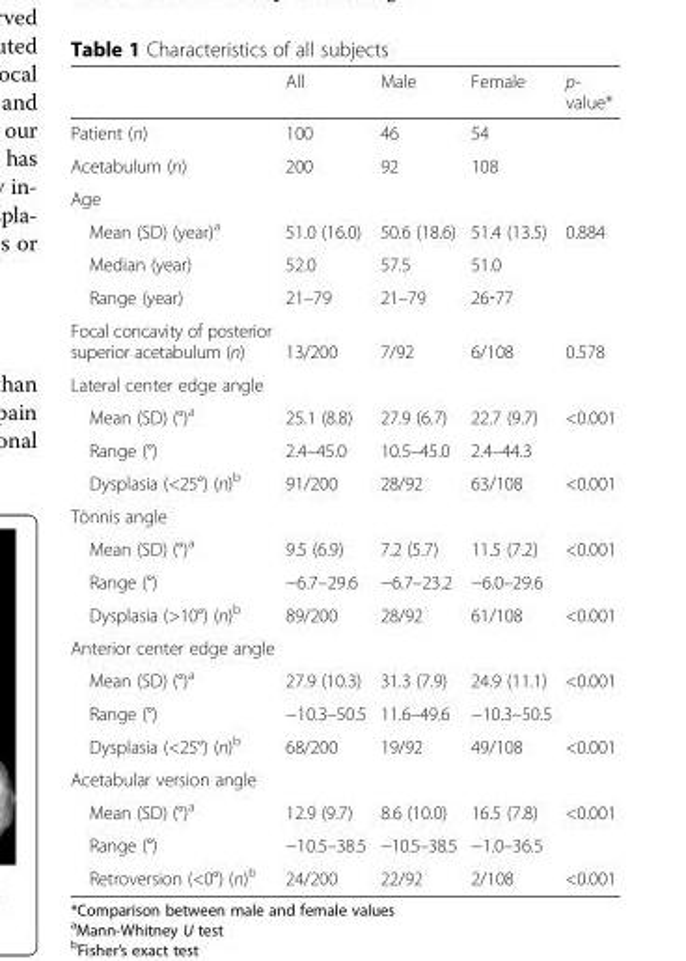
<table><thead><tr><td></td><td>All</td><td>Male</td><td>Female</td><td>p- value*</td></tr></thead><tbody><tr><td>Patient (n)</td><td>100</td><td>46</td><td>54</td><td></td></tr><tr><td>Acetabulum (n)</td><td>200</td><td>92</td><td>108</td><td></td></tr><tr><td colspan="5">Age</td></tr><tr><td>Mean (SD) (year)<sup>a</sup></td><td>51.0 (16.0)</td><td>50.6 (18.6)</td><td>51.4 (13.5)</td><td>0.884</td></tr><tr><td>Median (year)</td><td>52.0</td><td>57.5</td><td>51.0</td><td></td></tr><tr><td>Range (year)</td><td>21–79</td><td>21–79</td><td>26‐77</td><td></td></tr><tr><td>Focal concavity of posterior superior acetabulum (n)</td><td>13/200</td><td>7/92</td><td>6/108</td><td>0.578</td></tr><tr><td colspan="5">Lateral center edge angle</td></tr><tr><td>Mean (SD) (°)<sup>a</sup></td><td>25.1 (8.8)</td><td>27.9 (6.7)</td><td>22.7 (9.7)</td><td>&lt;0.001</td></tr><tr><td>Range (°)</td><td>2.4–45.0</td><td>10.5–45.0</td><td>2.4–44.3</td><td></td></tr><tr><td>Dysplasia (&lt;25°) (n)<sup>b</sup></td><td>91/200</td><td>28/92</td><td>63/108</td><td>&lt;0.001</td></tr><tr><td colspan="5">Tönnis angle</td></tr><tr><td>Mean (SD) (°)<sup>a</sup></td><td>9.5 (6.9)</td><td>7.2 (5.7)</td><td>11.5 (7.2)</td><td>&lt;0.001</td></tr><tr><td>Range (°)</td><td>−6.7–29.6</td><td>−6.7–23.2</td><td>−6.0–29.6</td><td></td></tr><tr><td>Dysplasia (&gt;10°) (n)<sup>b</sup></td><td>89/200</td><td>28/92</td><td>61/108</td><td>&lt;0.001</td></tr><tr><td colspan="5">Anterior center edge angle</td></tr><tr><td>Mean (SD) (°)<sup>a</sup></td><td>27.9 (10.3)</td><td>31.3 (7.9)</td><td>24.9 (11.1)</td><td>&lt;0.001</td></tr><tr><td>Range (°)</td><td>−10.3–50.5</td><td>11.6–49.6</td><td>−10.3–50.5</td><td></td></tr><tr><td>Dysplasia (&lt;25°) (n)<sup>b</sup></td><td>68/200</td><td>19/92</td><td>49/108</td><td>&lt;0.001</td></tr><tr><td colspan="5">Acetabular version angle</td></tr><tr><td>Mean (SD) (°)<sup>a</sup></td><td>12.9 (9.7)</td><td>8.6 (10.0)</td><td>16.5 (7.8)</td><td>&lt;0.001</td></tr><tr><td>Range (°)</td><td>−10.5–38.5</td><td>−10.5–38.5</td><td>−1.0–36.5</td><td></td></tr><tr><td>Retroversion (&lt;0°) (n)<sup>b</sup></td><td>24/200</td><td>22/92</td><td>2/108</td><td>&lt;0.001</td></tr></tbody></table>